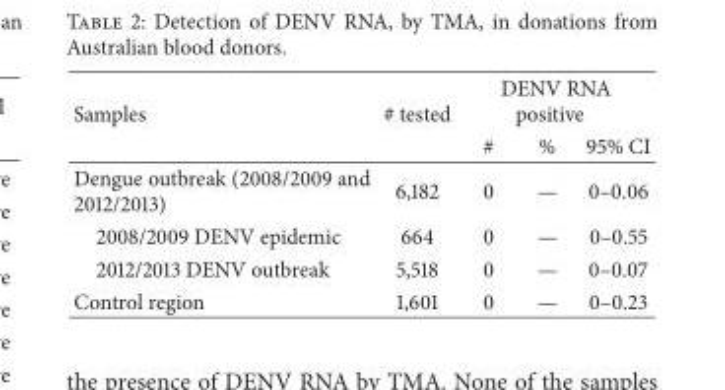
<table><thead><tr><td rowspan="2">Samples</td><td rowspan="2"># tested</td><td colspan="3">DENV RNA positive</td></tr><tr><td>#</td><td>%</td><td>95% CI</td></tr></thead><tbody><tr><td>Dengue outbreak (2008/2009 and 2012/2013)</td><td>6,182</td><td>0</td><td>—</td><td>0–0.06</td></tr><tr><td>2008/2009 DENV epidemic</td><td>664</td><td>0</td><td>—</td><td>0–0.55</td></tr><tr><td>2012/2013 DENV outbreak</td><td>5,518</td><td>0</td><td>—</td><td>0–0.07</td></tr><tr><td>Control region</td><td>1,601</td><td>0</td><td>—</td><td>0–0.23</td></tr></tbody></table>